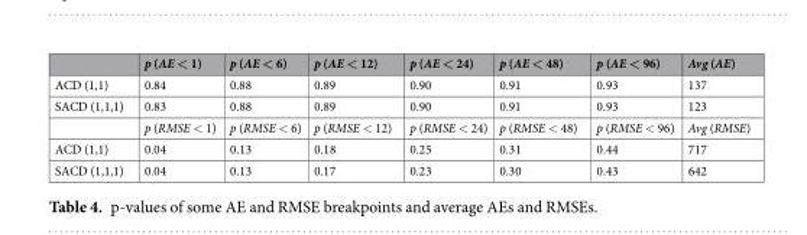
<table><thead><tr><td></td><td>p (AE &lt; 1)</td><td>p (AE &lt; 6)</td><td>p (AE &lt; 12)</td><td>p (AE &lt; 24)</td><td>p (AE &lt; 48)</td><td>p (AE &lt; 96)</td><td>Avg (AE)</td></tr></thead><tbody><tr><td>ACD (1,1)</td><td>0.84</td><td>0.88</td><td>0.89</td><td>0.90</td><td>0.91</td><td>0.93</td><td>137</td></tr><tr><td rowspan="2">SACD (1,1,1)</td><td>0.83</td><td>0.88</td><td>0.89</td><td>0.90</td><td>0.91</td><td>0.93</td><td>123</td></tr><tr><td>p (RMSE &lt; 1)</td><td>p (RMSE &lt; 6)</td><td>p (RMSE &lt; 12)</td><td>p (RMSE &lt; 24)</td><td>p (RMSE &lt; 48)</td><td>p (RMSE &lt; 96)</td><td>Avg (RMSE)</td></tr><tr><td>ACD (1,1)</td><td>0.04</td><td>0.13</td><td>0.18</td><td>0.25</td><td>0.31</td><td>0.44</td><td>717</td></tr><tr><td>SACD (1,1,1)</td><td>0.04</td><td>0.13</td><td>0.17</td><td>0.23</td><td>0.30</td><td>0.43</td><td>642</td></tr></tbody></table>